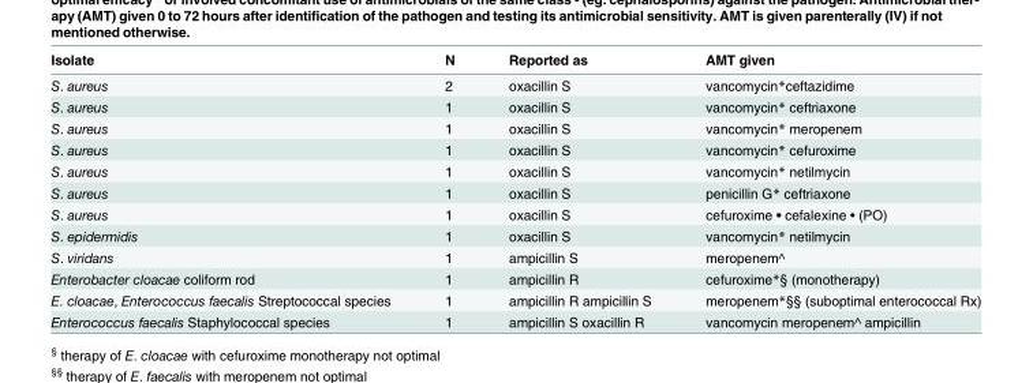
<table><thead><tr><td>Isolate</td><td>N</td><td>Reported as</td><td>AMT given</td></tr></thead><tbody><tr><td>S. aureus</td><td>2</td><td>oxacillin S</td><td>vancomycin*ceftazidime</td></tr><tr><td>S. aureus</td><td>1</td><td>oxacillin S</td><td>vancomycin* ceftriaxone</td></tr><tr><td>S. aureus</td><td>1</td><td>oxacillin S</td><td>vancomycin* meropenem</td></tr><tr><td>S. aureus</td><td>1</td><td>oxacillin S</td><td>vancomycin* cefuroxime</td></tr><tr><td>S. aureus</td><td>1</td><td>oxacillin S</td><td>vancomycin* netilmycin</td></tr><tr><td>S. aureus</td><td>1</td><td>oxacillin S</td><td>penicillin G* ceftriaxone</td></tr><tr><td>S. aureus</td><td>1</td><td>oxacillin S</td><td>cefuroxime • cefalexine • (PO)</td></tr><tr><td>S. epidermidis</td><td>1</td><td>oxacillin S</td><td>vancomycin* netilmycin</td></tr><tr><td>S. viridans</td><td>1</td><td>ampicillin S</td><td>meropenem^</td></tr><tr><td>Enterobacter cloacae coliform rod</td><td>1</td><td>ampicillin R</td><td>cefuroxime*§ (monotherapy)</td></tr><tr><td>E. cloacae, Enterococcus faecalis Streptococcal species</td><td>1</td><td>ampicillin R ampicillin S</td><td>meropenem*§§ (suboptimal enterococcal Rx)</td></tr><tr><td>Enterococcus faecalis Staphylococcal species</td><td>1</td><td>ampicillin S oxacillin R</td><td>vancomycin meropenem^ ampicillin</td></tr></tbody></table>